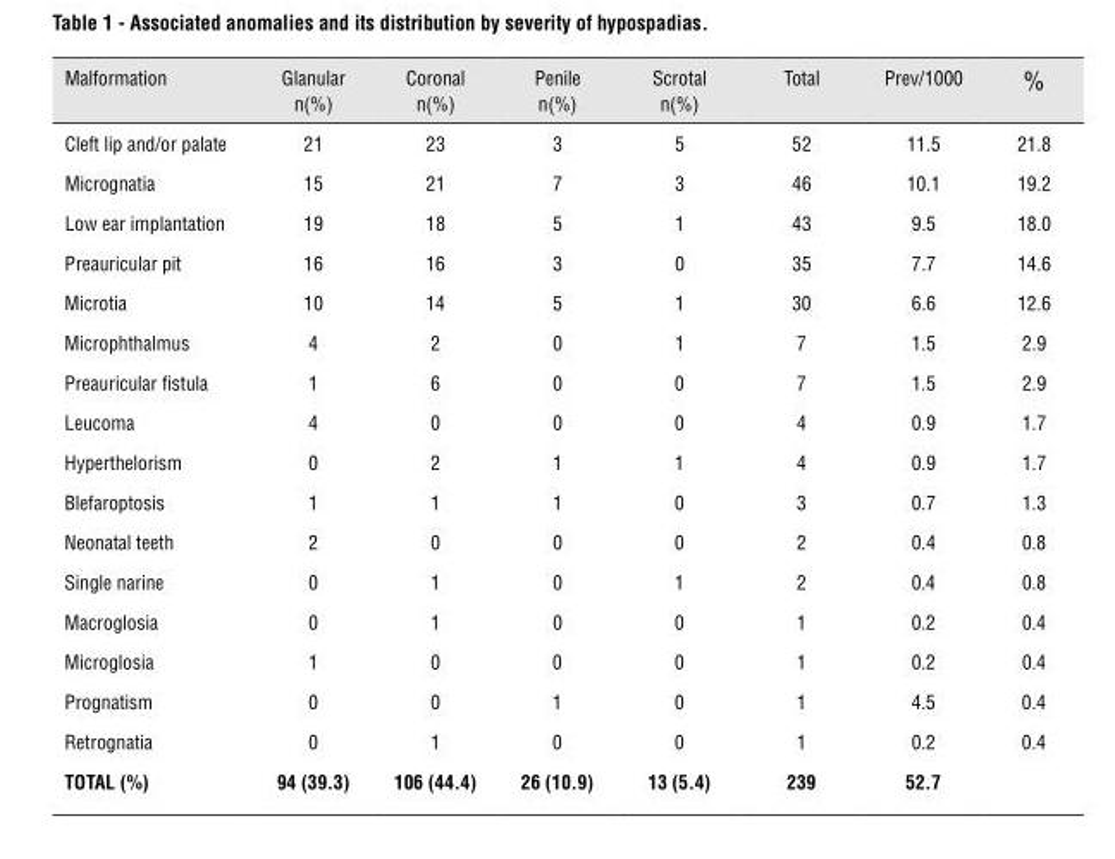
<table><thead><tr><td>Malformation</td><td>Glanular n(%)</td><td>Coronal n(%)</td><td>Penile n(%)</td><td>Scrotal n(%)</td><td>Total</td><td>Prev/1000</td><td>%</td></tr></thead><tbody><tr><td>Cleft lip and/or palate</td><td>21</td><td>23</td><td>3</td><td>5</td><td>52</td><td>11.5</td><td>21.8</td></tr><tr><td>Micrognatia</td><td>15</td><td>21</td><td>7</td><td>3</td><td>46</td><td>10.1</td><td>19.2</td></tr><tr><td>Low ear implantation</td><td>19</td><td>18</td><td>5</td><td>1</td><td>43</td><td>9.5</td><td>18.0</td></tr><tr><td>Preauricular pit</td><td>16</td><td>16</td><td>3</td><td>0</td><td>35</td><td>7.7</td><td>14.6</td></tr><tr><td>Microtia</td><td>10</td><td>14</td><td>5</td><td>1</td><td>30</td><td>6.6</td><td>12.6</td></tr><tr><td>Microphthalmus</td><td>4</td><td>2</td><td>0</td><td>1</td><td>7</td><td>1.5</td><td>2.9</td></tr><tr><td>Preauricular fistula</td><td>1</td><td>6</td><td>0</td><td>0</td><td>7</td><td>1.5</td><td>2.9</td></tr><tr><td>Leucoma</td><td>4</td><td>0</td><td>0</td><td>0</td><td>4</td><td>0.9</td><td>1.7</td></tr><tr><td>Hyperthelorism</td><td>0</td><td>2</td><td>1</td><td>1</td><td>4</td><td>0.9</td><td>1.7</td></tr><tr><td>Blefaroptosis</td><td>1</td><td>1</td><td>1</td><td>0</td><td>3</td><td>0.7</td><td>1.3</td></tr><tr><td>Neonatal teeth</td><td>2</td><td>0</td><td>0</td><td>0</td><td>2</td><td>0.4</td><td>0.8</td></tr><tr><td>Single narine</td><td>0</td><td>1</td><td>0</td><td>1</td><td>2</td><td>0.4</td><td>0.8</td></tr><tr><td>Macroglosia</td><td>0</td><td>1</td><td>0</td><td>0</td><td>1</td><td>0.2</td><td>0.4</td></tr><tr><td>Microglosia</td><td>1</td><td>0</td><td>0</td><td>0</td><td>1</td><td>0.2</td><td>0.4</td></tr><tr><td>Prognatism</td><td>0</td><td>0</td><td>1</td><td>0</td><td>1</td><td>4.5</td><td>0.4</td></tr><tr><td>Retrognatia</td><td>0</td><td>1</td><td>0</td><td>0</td><td>1</td><td>0.2</td><td>0.4</td></tr><tr><td>TOTAL (%)</td><td>94 (39.3)</td><td>106 (44.4)</td><td>26 (10.9)</td><td>13 (5.4)</td><td>239</td><td>52.7</td><td></td></tr></tbody></table>